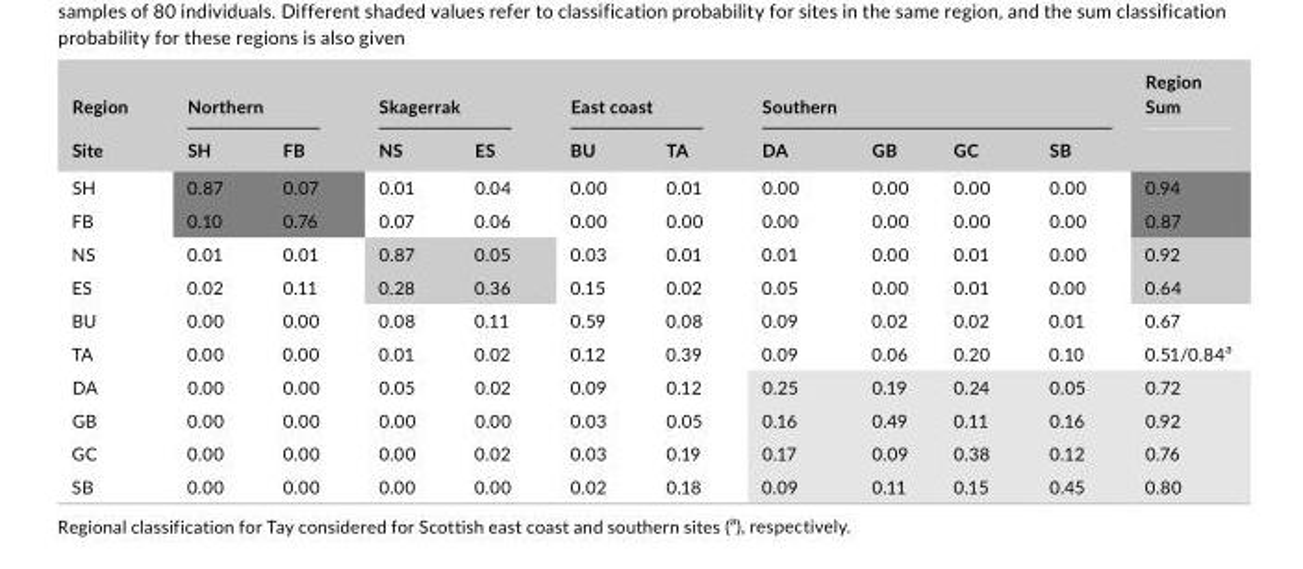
<table><thead><tr><td rowspan="2">Region Site</td><td colspan="2">Northern</td><td colspan="2">Skagerrak</td><td colspan="2">East coast</td><td colspan="4">Southern</td><td rowspan="2">Region Sum</td></tr><tr><td>SH</td><td>FB</td><td>NS</td><td>ES</td><td>BU</td><td>TA</td><td>DA</td><td>GB</td><td>GC</td><td>SB</td></tr></thead><tbody><tr><td>SH</td><td>0.87</td><td>0.07</td><td>0.01</td><td>0.04</td><td>0.00</td><td>0.01</td><td>0.00</td><td>0.00</td><td>0.00</td><td>0.00</td><td>0.94</td></tr><tr><td>FB</td><td>0.10</td><td>0.76</td><td>0.07</td><td>0.06</td><td>0.00</td><td>0.00</td><td>0.00</td><td>0.00</td><td>0.00</td><td>0.00</td><td>0.87</td></tr><tr><td>NS</td><td>0.01</td><td>0.01</td><td>0.87</td><td>0.05</td><td>0.03</td><td>0.01</td><td>0.01</td><td>0.00</td><td>0.01</td><td>0.00</td><td>0.92</td></tr><tr><td>ES</td><td>0.02</td><td>0.11</td><td>0.28</td><td>0.36</td><td>0.15</td><td>0.02</td><td>0.05</td><td>0.00</td><td>0.01</td><td>0.00</td><td>0.64</td></tr><tr><td>BU</td><td>0.00</td><td>0.00</td><td>0.08</td><td>0.11</td><td>0.59</td><td>0.08</td><td>0.09</td><td>0.02</td><td>0.02</td><td>0.01</td><td>0.67</td></tr><tr><td>TA</td><td>0.00</td><td>0.00</td><td>0.01</td><td>0.02</td><td>0.12</td><td>0.39</td><td>0.09</td><td>0.06</td><td>0.20</td><td>0.10</td><td>0.51/0.84<sup>a</sup></td></tr><tr><td>DA</td><td>0.00</td><td>0.00</td><td>0.05</td><td>0.02</td><td>0.09</td><td>0.12</td><td>0.25</td><td>0.19</td><td>0.24</td><td>0.05</td><td>0.72</td></tr><tr><td>GB</td><td>0.00</td><td>0.00</td><td>0.00</td><td>0.00</td><td>0.03</td><td>0.05</td><td>0.16</td><td>0.49</td><td>0.11</td><td>0.16</td><td>0.92</td></tr><tr><td>GC</td><td>0.00</td><td>0.00</td><td>0.00</td><td>0.02</td><td>0.03</td><td>0.19</td><td>0.17</td><td>0.09</td><td>0.38</td><td>0.12</td><td>0.76</td></tr><tr><td>SB</td><td>0.00</td><td>0.00</td><td>0.00</td><td>0.00</td><td>0.02</td><td>0.18</td><td>0.09</td><td>0.11</td><td>0.15</td><td>0.45</td><td>0.80</td></tr></tbody></table>